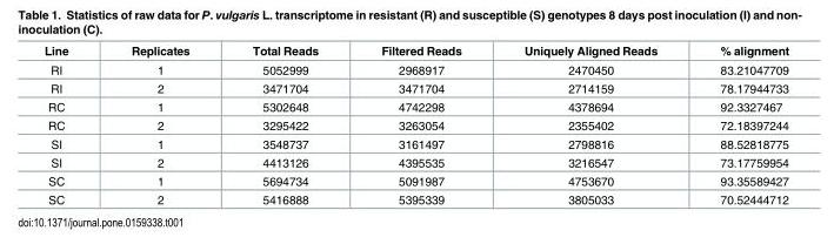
<table><thead><tr><td>Line</td><td>Replicates</td><td>Total Reads</td><td>Filtered Reads</td><td>Uniquely Aligned Reads</td><td>% alignment</td></tr></thead><tbody><tr><td>RI</td><td>1</td><td>5052999</td><td>2968917</td><td>2470450</td><td>83.21047709</td></tr><tr><td>RI</td><td>2</td><td>3471704</td><td>3471704</td><td>2714159</td><td>78.17944733</td></tr><tr><td>RC</td><td>1</td><td>5302648</td><td>4742298</td><td>4378694</td><td>92.3327467</td></tr><tr><td>RC</td><td>2</td><td>3295422</td><td>3263054</td><td>2355402</td><td>72.18397244</td></tr><tr><td>SI</td><td>1</td><td>3548737</td><td>3161497</td><td>2798816</td><td>88.52818775</td></tr><tr><td>SI</td><td>2</td><td>4413126</td><td>4395535</td><td>3216547</td><td>73.17759954</td></tr><tr><td>SC</td><td>1</td><td>5694734</td><td>5091987</td><td>4753670</td><td>93.35589427</td></tr><tr><td>SC</td><td>2</td><td>5416888</td><td>5395339</td><td>3805033</td><td>70.52444712</td></tr></tbody></table>